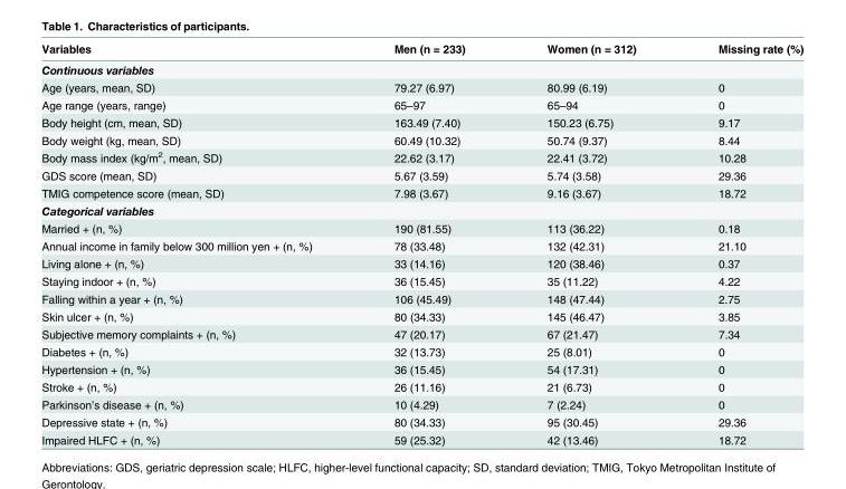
<table><thead><tr><td>Variables</td><td>Men (n = 233)</td><td>Women (n = 312)</td><td>Missing rate (%)</td></tr></thead><tbody><tr><td colspan="4">Continuous variables</td></tr><tr><td>Age (years, mean, SD)</td><td>79.27 (6.97)</td><td>80.99 (6.19)</td><td>0</td></tr><tr><td>Age range (years, range)</td><td>65–97</td><td>65–94</td><td>0</td></tr><tr><td>Body height (cm, mean, SD)</td><td>163.49 (7.40)</td><td>150.23 (6.75)</td><td>9.17</td></tr><tr><td>Body weight (kg, mean, SD)</td><td>60.49 (10.32)</td><td>50.74 (9.37)</td><td>8.44</td></tr><tr><td>Body mass index (kg/m<sup>2</sup>, mean, SD)</td><td>22.62 (3.17)</td><td>22.41 (3.72)</td><td>10.28</td></tr><tr><td>GDS score (mean, SD)</td><td>5.67 (3.59)</td><td>5.74 (3.58)</td><td>29.36</td></tr><tr><td>TMIG competence score (mean, SD)</td><td>7.98 (3.67)</td><td>9.16 (3.67)</td><td>18.72</td></tr><tr><td colspan="4">Categorical variables</td></tr><tr><td>Married + (n, %)</td><td>190 (81.55)</td><td>113 (36.22)</td><td>0.18</td></tr><tr><td>Annual income in family below 300 million yen + (n, %)</td><td>78 (33.48)</td><td>132 (42.31)</td><td>21.10</td></tr><tr><td>Living alone + (n, %)</td><td>33 (14.16)</td><td>120 (38.46)</td><td>0.37</td></tr><tr><td>Staying indoor + (n, %)</td><td>36 (15.45)</td><td>35 (11.22)</td><td>4.22</td></tr><tr><td>Falling within a year + (n, %)</td><td>106 (45.49)</td><td>148 (47.44)</td><td>2.75</td></tr><tr><td>Skin ulcer + (n, %)</td><td>80 (34.33)</td><td>145 (46.47)</td><td>3.85</td></tr><tr><td>Subjective memory complaints + (n, %)</td><td>47 (20.17)</td><td>67 (21.47)</td><td>7.34</td></tr><tr><td>Diabetes + (n, %)</td><td>32 (13.73)</td><td>25 (8.01)</td><td>0</td></tr><tr><td>Hypertension + (n, %)</td><td>36 (15.45)</td><td>54 (17.31)</td><td>0</td></tr><tr><td>Stroke + (n, %)</td><td>26 (11.16)</td><td>21 (6.73)</td><td>0</td></tr><tr><td>Parkinson’s disease + (n, %)</td><td>10 (4.29)</td><td>7 (2.24)</td><td>0</td></tr><tr><td>Depressive state + (n, %)</td><td>80 (34.33)</td><td>95 (30.45)</td><td>29.36</td></tr><tr><td>Impaired HLFC + (n, %)</td><td>59 (25.32)</td><td>42 (13.46)</td><td>18.72</td></tr></tbody></table>